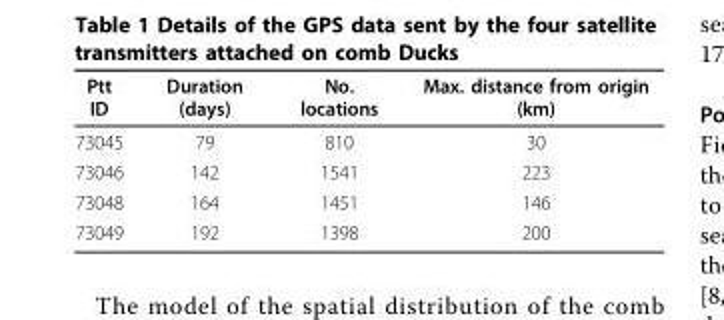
<table><thead><tr><td>Ptt ID</td><td>Duration (days)</td><td>No. locations</td><td>Max. distance from origin (km)</td></tr></thead><tbody><tr><td>73045</td><td>79</td><td>810</td><td>30</td></tr><tr><td>73046</td><td>142</td><td>1541</td><td>223</td></tr><tr><td>73048</td><td>164</td><td>1451</td><td>146</td></tr><tr><td>73049</td><td>192</td><td>1398</td><td>200</td></tr></tbody></table>